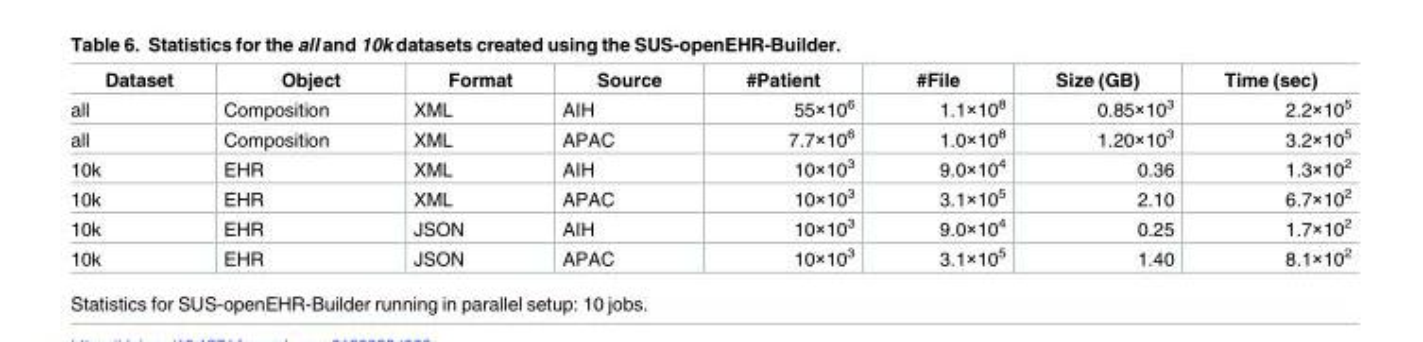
<table><thead><tr><td>Dataset</td><td>Object</td><td>Format</td><td>Source</td><td>#Patient</td><td>#File</td><td>Size (GB)</td><td>Time (sec)</td></tr></thead><tbody><tr><td>all</td><td>Composition</td><td>XML</td><td>AIH</td><td>55×10<sup>6</sup></td><td>1.1×10<sup>8</sup></td><td>0.85×10<sup>3</sup></td><td>2.2×10<sup>5</sup></td></tr><tr><td>all</td><td>Composition</td><td>XML</td><td>APAC</td><td>7.7×10<sup>6</sup></td><td>1.0×10<sup>8</sup></td><td>1.20×10<sup>3</sup></td><td>3.2×10<sup>5</sup></td></tr><tr><td>10k</td><td>EHR</td><td>XML</td><td>AIH</td><td>10×10<sup>3</sup></td><td>9.0×10<sup>4</sup></td><td>0.36</td><td>1.3×10<sup>2</sup></td></tr><tr><td>10k</td><td>EHR</td><td>XML</td><td>APAC</td><td>10×10<sup>3</sup></td><td>3.1×10<sup>5</sup></td><td>2.10</td><td>6.7×10<sup>2</sup></td></tr><tr><td>10k</td><td>EHR</td><td>JSON</td><td>AIH</td><td>10×10<sup>3</sup></td><td>9.0×10<sup>4</sup></td><td>0.25</td><td>1.7×10<sup>2</sup></td></tr><tr><td>10k</td><td>EHR</td><td>JSON</td><td>APAC</td><td>10×10<sup>3</sup></td><td>3.1×10<sup>5</sup></td><td>1.40</td><td>8.1×10<sup>2</sup></td></tr></tbody></table>